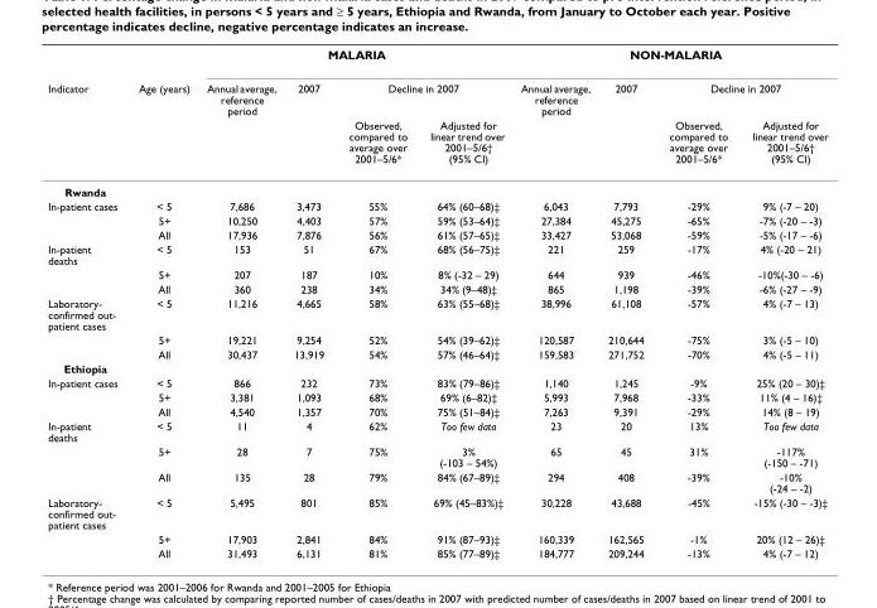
<table><thead><tr><td rowspan="3">Indicator</td><td rowspan="3">Age (years)</td><td colspan="4">MALARIA</td><td colspan="4">NON-MALARIA</td></tr><tr><td rowspan="2">Annual average, reference period</td><td rowspan="2">2007</td><td colspan="2">Decline in 2007</td><td rowspan="2">Annual average, reference period</td><td rowspan="2">2007</td><td colspan="2">Decline in 2007</td></tr><tr><td>Observed, compared to average over 2001–5/6*</td><td>Adjusted for linear trend over 2001–5/6† (95% CI)</td><td>Observed, compared to average over 2001–5/6*</td><td>Adjusted for linear trend over 2001–5/6† (95% CI)</td></tr></thead><tbody><tr><td colspan="10">Rwanda</td></tr><tr><td rowspan="3">In-patient cases</td><td>&lt; 5</td><td>7,686</td><td>3,473</td><td>55%</td><td>64% (60–68)‡</td><td>6,043</td><td>7,793</td><td>-29%</td><td>9% (-7 – 20)</td></tr><tr><td>5+</td><td>10,250</td><td>4,403</td><td>57%</td><td>59% (53–64)‡</td><td>27,384</td><td>45,275</td><td>-65%</td><td>-7% (-20 – -3)</td></tr><tr><td>All</td><td>17,936</td><td>7,876</td><td>56%</td><td>61% (57–65)‡</td><td>33,427</td><td>53,068</td><td>-59%</td><td>-5% (-17 – -6)</td></tr><tr><td rowspan="3">In-patient deaths</td><td>&lt; 5</td><td>153</td><td>51</td><td>67%</td><td>68% (56–75)‡</td><td>221</td><td>259</td><td>-17%</td><td>4% (-20 – 21)</td></tr><tr><td>5+</td><td>207</td><td>187</td><td>10%</td><td>8% (-32 – 29)</td><td>644</td><td>939</td><td>-46%</td><td>-10%(-30 – -6)</td></tr><tr><td>All</td><td>360</td><td>238</td><td>34%</td><td>34% (9–48)‡</td><td>865</td><td>1,198</td><td>-39%</td><td>-6% (-27 – -9)</td></tr><tr><td rowspan="3">Laboratory- confirmed out- patient cases</td><td>&lt; 5</td><td>11,216</td><td>4,665</td><td>58%</td><td>63% (55–68)‡</td><td>38,996</td><td>61,108</td><td>-57%</td><td>4% (-7 – 13)</td></tr><tr><td>5+</td><td>19,221</td><td>9,254</td><td>52%</td><td>54% (39–62)‡</td><td>120,587</td><td>210,644</td><td>-75%</td><td>3% (-5 – 10)</td></tr><tr><td>All</td><td>30,437</td><td>13,919</td><td>54%</td><td>57% (46–64)‡</td><td>159,583</td><td>271,752</td><td>-70%</td><td>4% (-5 – 11)</td></tr><tr><td colspan="10">Ethiopia</td></tr><tr><td rowspan="3">In-patient cases</td><td>&lt; 5</td><td>866</td><td>232</td><td>73%</td><td>83% (79–86)‡</td><td>1,140</td><td>1,245</td><td>-9%</td><td>25% (20 – 30)‡</td></tr><tr><td>5+</td><td>3,381</td><td>1,093</td><td>68%</td><td>69% (6–82)‡</td><td>5,993</td><td>7,968</td><td>-33%</td><td>11% (4 – 16)‡</td></tr><tr><td>All</td><td>4,540</td><td>1,357</td><td>70%</td><td>75% (51–84)‡</td><td>7,263</td><td>9,391</td><td>-29%</td><td>14% (8 – 19)</td></tr><tr><td rowspan="3">In-patient deaths</td><td>&lt; 5</td><td>11</td><td>4</td><td>62%</td><td>Too few data</td><td>23</td><td>20</td><td>13%</td><td>Too few data</td></tr><tr><td>5+</td><td>28</td><td>7</td><td>75%</td><td>3% (-103 – 54%)</td><td>65</td><td>45</td><td>31%</td><td>-117% (-150 – -71)</td></tr><tr><td>All</td><td>135</td><td>28</td><td>79%</td><td>84% (67–89)‡</td><td>294</td><td>408</td><td>-39%</td><td>-10% (-24 – -2)</td></tr><tr><td rowspan="3">Laboratory- confirmed out- patient cases</td><td>&lt; 5</td><td>5,495</td><td>801</td><td>85%</td><td>69% (45–83%)‡</td><td>30,228</td><td>43,688</td><td>-45%</td><td>-15% (-30 – -3)‡</td></tr><tr><td>5+</td><td>17,903</td><td>2,841</td><td>84%</td><td>91% (87–93)‡</td><td>160,339</td><td>162,565</td><td>-1%</td><td>20% (12 – 26)‡</td></tr><tr><td>All</td><td>31,493</td><td>6,131</td><td>81%</td><td>85% (77–89)‡</td><td>184,777</td><td>209,244</td><td>-13%</td><td>4% (-7 – 12)</td></tr></tbody></table>